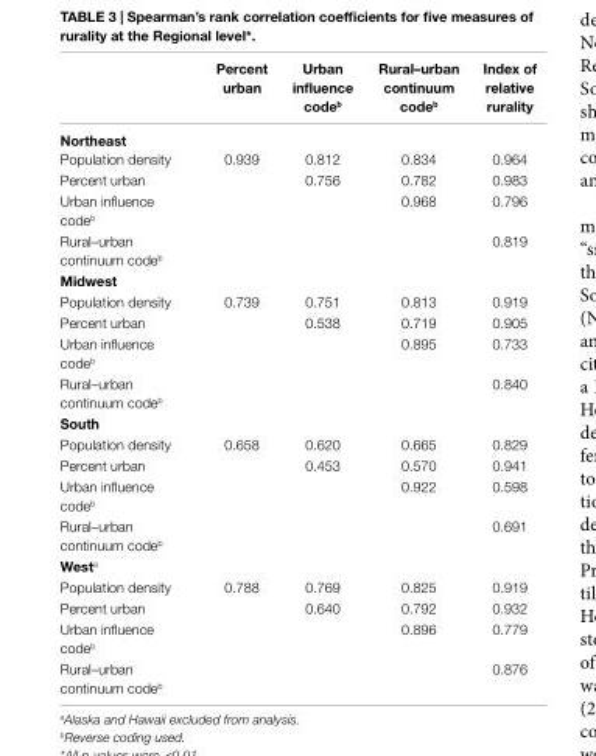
<table><thead><tr><td></td><td>Percent urban</td><td>Urban influence code<sup>b</sup></td><td>rural–urban continuum code<sup>b</sup></td><td>index of relative rurality</td></tr></thead><tbody><tr><td colspan="5">northeast</td></tr><tr><td>Population density</td><td>0.939</td><td>0.812</td><td>0.834</td><td>0.964</td></tr><tr><td>Percent urban</td><td></td><td>0.756</td><td>0.782</td><td>0.983</td></tr><tr><td>Urban influence code<sup>b</sup></td><td></td><td></td><td>0.968</td><td>0.796</td></tr><tr><td>Rural–urban continuum code<sup>b</sup></td><td></td><td></td><td></td><td>0.819</td></tr><tr><td colspan="5">Midwest</td></tr><tr><td>Population density</td><td>0.739</td><td>0.751</td><td>0.813</td><td>0.919</td></tr><tr><td>Percent urban</td><td></td><td>0.538</td><td>0.719</td><td>0.905</td></tr><tr><td>Urban influence code<sup>b</sup></td><td></td><td></td><td>0.895</td><td>0.733</td></tr><tr><td>Rural–urban continuum code<sup>b</sup></td><td></td><td></td><td></td><td>0.840</td></tr><tr><td colspan="5">south</td></tr><tr><td>Population density</td><td>0.658</td><td>0.620</td><td>0.665</td><td>0.829</td></tr><tr><td>Percent urban</td><td></td><td>0.453</td><td>0.570</td><td>0.941</td></tr><tr><td>Urban influence code<sup>b</sup></td><td></td><td></td><td>0.922</td><td>0.598</td></tr><tr><td>Rural–urban continuum code<sup>b</sup></td><td></td><td></td><td></td><td>0.691</td></tr><tr><td colspan="5">West<sup>a</sup></td></tr><tr><td>Population density</td><td>0.788</td><td>0.769</td><td>0.825</td><td>0.919</td></tr><tr><td>Percent urban</td><td></td><td>0.640</td><td>0.792</td><td>0.932</td></tr><tr><td>Urban influence code<sup>b</sup></td><td></td><td></td><td>0.896</td><td>0.779</td></tr><tr><td>Rural–urban continuum code<sup>b</sup></td><td></td><td></td><td></td><td>0.876</td></tr></tbody></table>